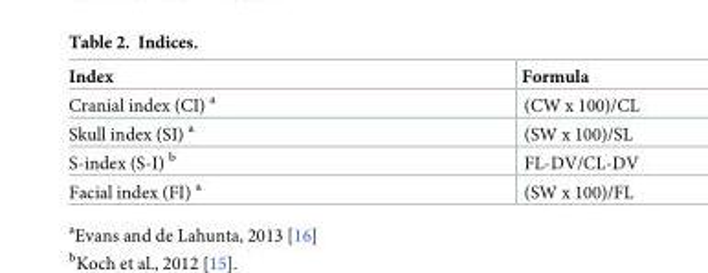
<table><thead><tr><td>Index</td><td>Formula</td></tr></thead><tbody><tr><td>Cranial index (CI) <sup>a</sup></td><td>(CW x 100)/CL</td></tr><tr><td>Skull index (SI) <sup>a</sup></td><td>(SW x 100)/SL</td></tr><tr><td>S-index (S-I) <sup>b</sup></td><td>FL-DV/CL-DV</td></tr><tr><td>Facial index (FI) <sup>a</sup></td><td>(SW x 100)/FL</td></tr></tbody></table>